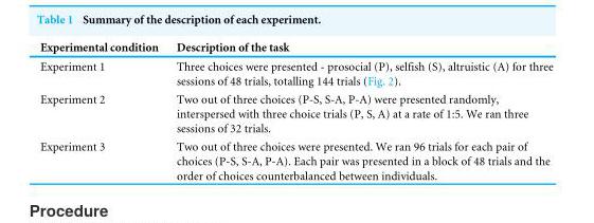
<table><thead><tr><td>Experimental condition</td><td>Description of the task</td></tr></thead><tbody><tr><td>Experiment 1</td><td>Three choices were presented - prosocial (P), selfish (S), altruistic (A) for three sessions of 48 trials, totalling 144 trials (Fig. 2).</td></tr><tr><td>Experiment 2</td><td>Two out of three choices (P-S, S-A, P-A) were presented randomly, interspersed with three choice trials (P, S, A) at a rate of 1:5. We ran three sessions of 32 trials.</td></tr><tr><td>Experiment 3</td><td>Two out of three choices were presented. We ran 96 trials for each pair of choices (P-S, S-A, P-A). Each pair was presented in a block of 48 trials and the order of choices counterbalanced between individuals.</td></tr></tbody></table>